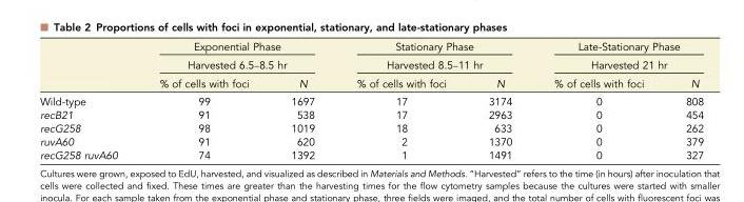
<table><thead><tr><td rowspan="3"></td><td rowspan="2" colspan="2">Exponential Phase Harvested 6.5–8.5 hr</td><td rowspan="2" colspan="2">Stationary Phase Harvested 8.5–11 hr</td><td rowspan="2" colspan="2">Late-Stationary Phase Harvested 21 hr</td></tr><tr></tr><tr><td>% of cells with foci</td><td>N</td><td>% of cells with foci</td><td>N</td><td>% of cells with foci</td><td>N</td></tr></thead><tbody><tr><td>Wild-type</td><td>99</td><td>1697</td><td>17</td><td>3174</td><td>0</td><td>808</td></tr><tr><td>recB21</td><td>91</td><td>538</td><td>17</td><td>2963</td><td>0</td><td>454</td></tr><tr><td>recG258</td><td>98</td><td>1019</td><td>18</td><td>633</td><td>0</td><td>262</td></tr><tr><td>ruvA60</td><td>91</td><td>620</td><td>2</td><td>1370</td><td>0</td><td>379</td></tr><tr><td>recG258 ruvA60</td><td>74</td><td>1392</td><td>1</td><td>1491</td><td>0</td><td>327</td></tr></tbody></table>